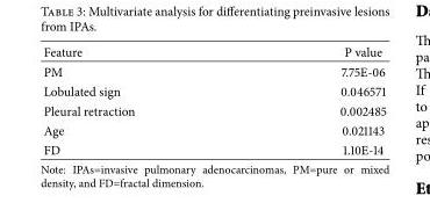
<table><thead><tr><td>Feature</td><td>P value</td></tr></thead><tbody><tr><td>PM</td><td>7.75E-06</td></tr><tr><td>Lobulated sign</td><td>0.046571</td></tr><tr><td>Pleural retraction</td><td>0.002485</td></tr><tr><td>Age</td><td>0.021143</td></tr><tr><td>FD</td><td>1.10E-14</td></tr></tbody></table>